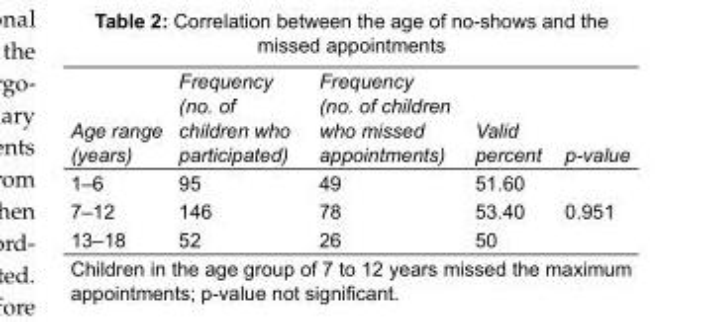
<table><tbody><tr><td>Age range (years)</td><td>Frequency (no. of children who participated)</td><td>Frequency (no. of children who missed appointments)</td><td>Valid percent</td><td>p-value</td></tr><tr><td>1–6</td><td>95</td><td>49</td><td>51.60</td><td></td></tr><tr><td>7–12</td><td>146</td><td>78</td><td>53.40</td><td>0.951</td></tr><tr><td>13–18</td><td>52</td><td>26</td><td>50</td><td></td></tr></tbody></table>